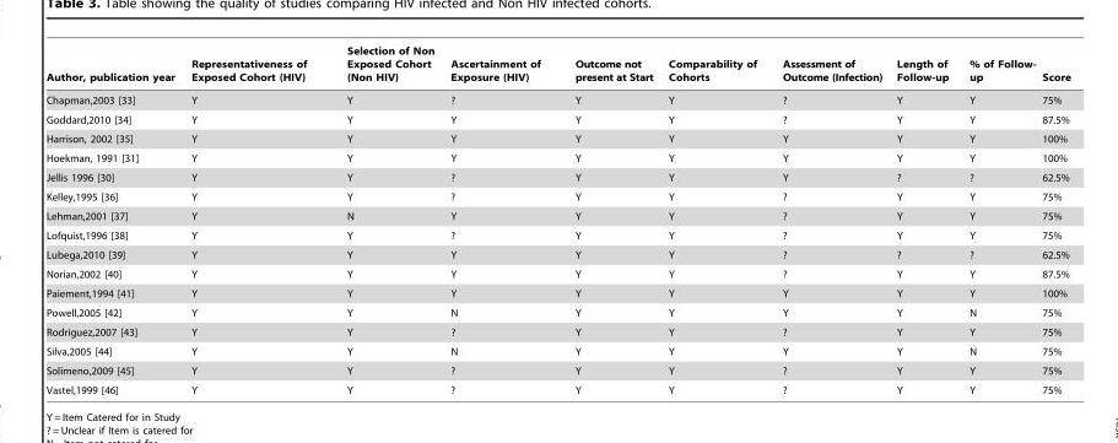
<table><thead><tr><td>Author, publication year</td><td>Representativeness of Exposed Cohort (HIV)</td><td>Selection of Non Exposed Cohort (Non HIV)</td><td>Ascertainment of Exposure (HIV)</td><td>Outcome not present at Start</td><td>Comparability of Cohorts</td><td>Assessment of Outcome (Infection)</td><td>Length of Follow-up</td><td>% of Follow- up</td><td>Score</td></tr></thead><tbody><tr><td>Chapman,2003 [33]</td><td>Y</td><td>Y</td><td>?</td><td>Y</td><td>Y</td><td>?</td><td>Y</td><td>Y</td><td>75%</td></tr><tr><td>Goddard,2010 [34]</td><td>Y</td><td>Y</td><td>Y</td><td>Y</td><td>Y</td><td>?</td><td>Y</td><td>Y</td><td>87.5%</td></tr><tr><td>Harrison, 2002 [35]</td><td>Y</td><td>Y</td><td>Y</td><td>Y</td><td>Y</td><td>Y</td><td>Y</td><td>Y</td><td>100%</td></tr><tr><td>Hoekman, 1991 [31]</td><td>Y</td><td>Y</td><td>Y</td><td>Y</td><td>Y</td><td>Y</td><td>Y</td><td>Y</td><td>100%</td></tr><tr><td>Jellis 1996 [30]</td><td>Y</td><td>Y</td><td>?</td><td>Y</td><td>Y</td><td>Y</td><td>?</td><td>?</td><td>62.5%</td></tr><tr><td>Kelley,1995 [36]</td><td>Y</td><td>Y</td><td>?</td><td>Y</td><td>Y</td><td>?</td><td>Y</td><td>Y</td><td>75%</td></tr><tr><td>Lehman,2001 [37]</td><td>Y</td><td>N</td><td>Y</td><td>Y</td><td>Y</td><td>?</td><td>Y</td><td>Y</td><td>75%</td></tr><tr><td>Lofquist,1996 [38]</td><td>Y</td><td>Y</td><td>?</td><td>Y</td><td>Y</td><td>?</td><td>Y</td><td>Y</td><td>75%</td></tr><tr><td>Lubega,2010 [39]</td><td>Y</td><td>Y</td><td>Y</td><td>Y</td><td>Y</td><td>?</td><td>?</td><td>?</td><td>62.5%</td></tr><tr><td>Norian,2002 [40]</td><td>Y</td><td>Y</td><td>Y</td><td>Y</td><td>Y</td><td>?</td><td>Y</td><td>Y</td><td>87.5%</td></tr><tr><td>Paiement,1994 [41]</td><td>Y</td><td>Y</td><td>Y</td><td>Y</td><td>Y</td><td>Y</td><td>Y</td><td>Y</td><td>100%</td></tr><tr><td>Powell,2005 [42]</td><td>Y</td><td>Y</td><td>N</td><td>Y</td><td>Y</td><td>Y</td><td>Y</td><td>N</td><td>75%</td></tr><tr><td>Rodriguez,2007 [43]</td><td>Y</td><td>Y</td><td>?</td><td>Y</td><td>Y</td><td>?</td><td>Y</td><td>Y</td><td>75%</td></tr><tr><td>Silva,2005 [44]</td><td>Y</td><td>Y</td><td>N</td><td>Y</td><td>Y</td><td>Y</td><td>Y</td><td>N</td><td>75%</td></tr><tr><td>Solimeno,2009 [45]</td><td>Y</td><td>Y</td><td>?</td><td>Y</td><td>Y</td><td>?</td><td>Y</td><td>Y</td><td>75%</td></tr><tr><td>Vastel,1999 [46]</td><td>Y</td><td>Y</td><td>?</td><td>Y</td><td>Y</td><td>?</td><td>Y</td><td>Y</td><td>75%</td></tr></tbody></table>